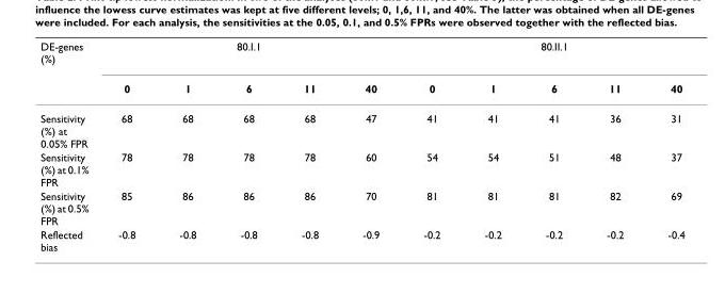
<table><thead><tr><td rowspan="2">DE-genes (%)</td><td colspan="5">80.I.1</td><td colspan="5">80.II.1</td></tr><tr><td>0</td><td>1</td><td>6</td><td>11</td><td>40</td><td>0</td><td>1</td><td>6</td><td>11</td><td>40</td></tr></thead><tbody><tr><td>Sensitivity (%) at 0.05% FPR</td><td>68</td><td>68</td><td>68</td><td>68</td><td>47</td><td>41</td><td>41</td><td>41</td><td>36</td><td>31</td></tr><tr><td>Sensitivity (%) at 0.1% FPR</td><td>78</td><td>78</td><td>78</td><td>78</td><td>60</td><td>54</td><td>54</td><td>51</td><td>48</td><td>37</td></tr><tr><td>Sensitivity (%) at 0.5% FPR</td><td>85</td><td>86</td><td>86</td><td>86</td><td>70</td><td>81</td><td>81</td><td>81</td><td>82</td><td>69</td></tr><tr><td>Reflected bias</td><td>-0.8</td><td>-0.8</td><td>-0.8</td><td>-0.8</td><td>-0.9</td><td>-0.2</td><td>-0.2</td><td>-0.2</td><td>-0.2</td><td>-0.4</td></tr></tbody></table>